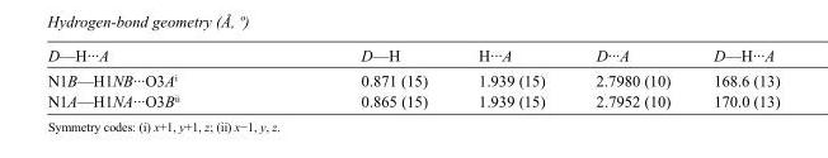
<table><tbody><tr><td>D—H···A</td><td>D—H</td><td>H···A</td><td>D···A</td><td>D—H···A</td></tr><tr><td>N1B—H1NB···O3A<sup>i</sup></td><td>0.871 (15)</td><td>1.939 (15)</td><td>2.7980 (10)</td><td>168.6 (13)</td></tr><tr><td>N1A—H1NA···O3B<sup>ii</sup></td><td>0.865 (15)</td><td>1.939 (15)</td><td>2.7952 (10)</td><td>170.0 (13)</td></tr></tbody></table>